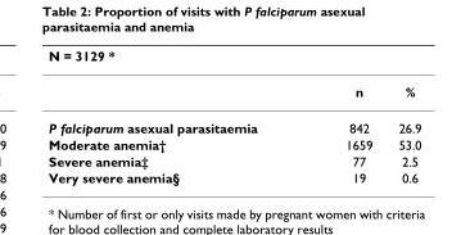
<table><thead><tr><td>N = 3129 *</td><td></td><td></td></tr></thead><tbody><tr><td></td><td>n</td><td>%</td></tr><tr><td>P falciparum asexual parasitaemia</td><td>842</td><td>26.9</td></tr><tr><td>Moderate anemia†</td><td>1659</td><td>53.0</td></tr><tr><td>Severe anemia‡</td><td>77</td><td>2.5</td></tr><tr><td>Very severe anemia§</td><td>19</td><td>0.6</td></tr></tbody></table>